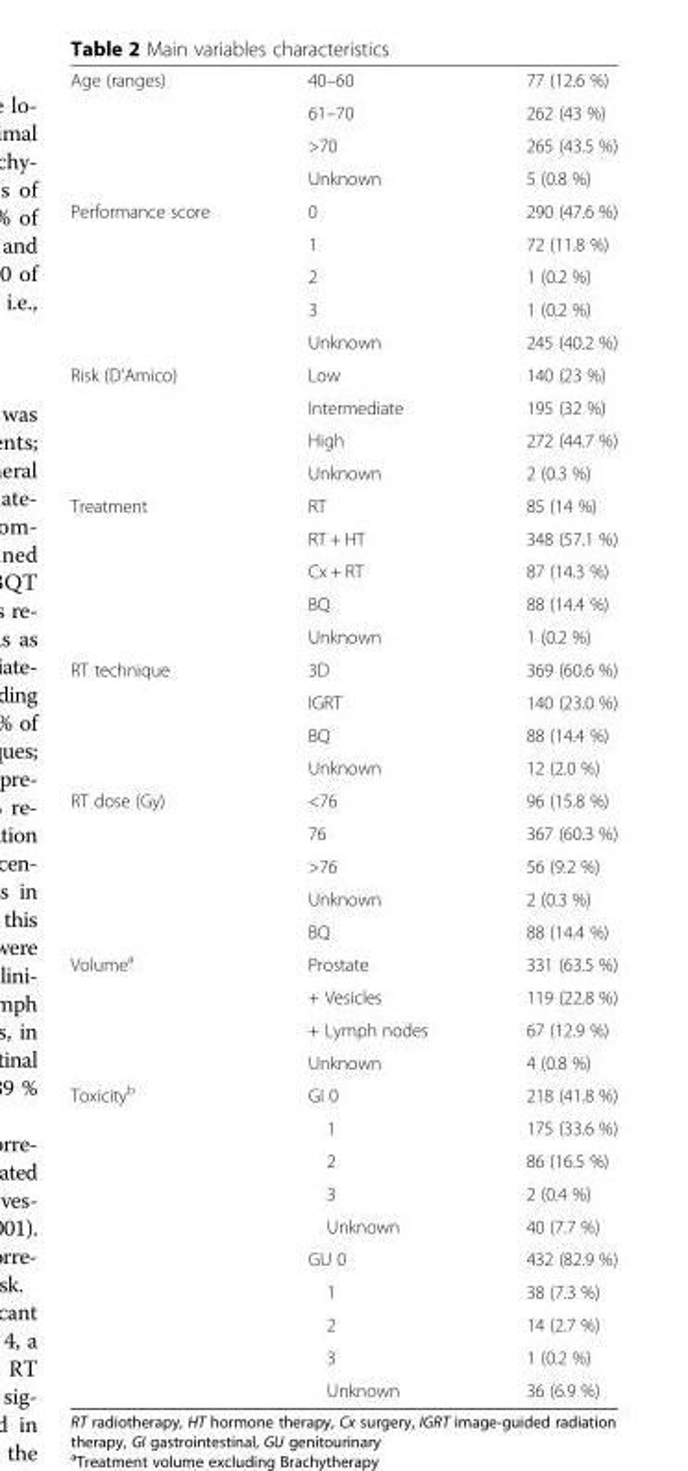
<table><tbody><tr><td rowspan="4">Age (ranges)</td><td>40–60</td><td>77 (12.6 %)</td></tr><tr><td>61–70</td><td>262 (43 %)</td></tr><tr><td>&gt;70</td><td>265 (43.5 %)</td></tr><tr><td>Unknown</td><td>5 (0.8 %)</td></tr><tr><td rowspan="5">Performance score</td><td>0</td><td>290 (47.6 %)</td></tr><tr><td>1</td><td>72 (11.8 %)</td></tr><tr><td>2</td><td>1 (0.2 %)</td></tr><tr><td>3</td><td>1 (0.2 %)</td></tr><tr><td>Unknown</td><td>245 (40.2 %)</td></tr><tr><td rowspan="4">Risk (D’Amico)</td><td>Low</td><td>140 (23 %)</td></tr><tr><td>Intermediate</td><td>195 (32 %)</td></tr><tr><td>High</td><td>272 (44.7 %)</td></tr><tr><td>Unknown</td><td>2 (0.3 %)</td></tr><tr><td rowspan="5">Treatment</td><td>RT</td><td>85 (14 %)</td></tr><tr><td>RT + HT</td><td>348 (57.1 %)</td></tr><tr><td>Cx + RT</td><td>87 (14.3 %)</td></tr><tr><td>BQ</td><td>88 (14.4 %)</td></tr><tr><td>Unknown</td><td>1 (0.2 %)</td></tr><tr><td rowspan="4">RT technique</td><td>3D</td><td>369 (60.6 %)</td></tr><tr><td>IGRT</td><td>140 (23.0 %)</td></tr><tr><td>BQ</td><td>88 (14.4 %)</td></tr><tr><td>Unknown</td><td>12 (2.0 %)</td></tr><tr><td rowspan="5">RT dose (Gy)</td><td>&lt;76</td><td>96 (15.8 %)</td></tr><tr><td>76</td><td>367 (60.3 %)</td></tr><tr><td>&gt;76</td><td>56 (9.2 %)</td></tr><tr><td>Unknown</td><td>2 (0.3 %)</td></tr><tr><td>BQ</td><td>88 (14.4 %)</td></tr><tr><td rowspan="4">Volume<sup>a</sup></td><td>Prostate</td><td>331 (63.5 %)</td></tr><tr><td>+ Vesicles</td><td>119 (22.8 %)</td></tr><tr><td>+ Lymph nodes</td><td>67 (12.9 %)</td></tr><tr><td>Unknown</td><td>4 (0.8 %)</td></tr><tr><td rowspan="10">Toxicity<sup>b</sup></td><td>GI 0</td><td>218 (41.8 %)</td></tr><tr><td>1</td><td>175 (33.6 %)</td></tr><tr><td>2</td><td>86 (16.5 %)</td></tr><tr><td>3</td><td>2 (0.4 %)</td></tr><tr><td>Unknown</td><td>40 (7.7 %)</td></tr><tr><td>GU 0</td><td>432 (82.9 %)</td></tr><tr><td>1</td><td>38 (7.3 %)</td></tr><tr><td>2</td><td>14 (2.7 %)</td></tr><tr><td>3</td><td>1 (0.2 %)</td></tr><tr><td>Unknown</td><td>36 (6.9 %)</td></tr></tbody></table>